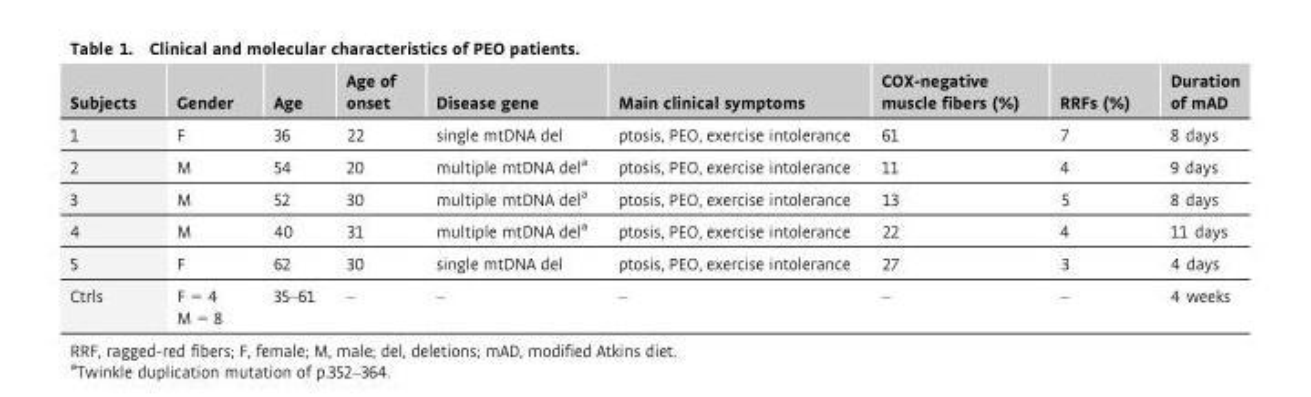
<table><thead><tr><td>Subjects</td><td>Gender</td><td>Age</td><td>Age of onset</td><td>Disease gene</td><td>Main clinical symptoms</td><td>COX-negative muscle fibers (%)</td><td>RRFs (%)</td><td>Duration of mAD</td></tr></thead><tbody><tr><td>1</td><td>F</td><td>36</td><td>22</td><td>single mtDNA del</td><td>ptosis, PEO, exercise intolerance</td><td>61</td><td>7</td><td>8 days</td></tr><tr><td>2</td><td>M</td><td>54</td><td>20</td><td>multiple mtDNA del<sup>a</sup></td><td>ptosis, PEO, exercise intolerance</td><td>11</td><td>4</td><td>9 days</td></tr><tr><td>3</td><td>M</td><td>52</td><td>30</td><td>multiple mtDNA del<sup>a</sup></td><td>ptosis, PEO, exercise intolerance</td><td>13</td><td>5</td><td>8 days</td></tr><tr><td>4</td><td>M</td><td>40</td><td>31</td><td>multiple mtDNA del<sup>a</sup></td><td>ptosis, PEO, exercise intolerance</td><td>22</td><td>4</td><td>11 days</td></tr><tr><td>5</td><td>F</td><td>62</td><td>30</td><td>single mtDNA del</td><td>ptosis, PEO, exercise intolerance</td><td>27</td><td>3</td><td>4 days</td></tr><tr><td>Ctrls</td><td>F = 4 M = 8</td><td>35–61</td><td>–</td><td>–</td><td>–</td><td>–</td><td>–</td><td>4 weeks</td></tr></tbody></table>